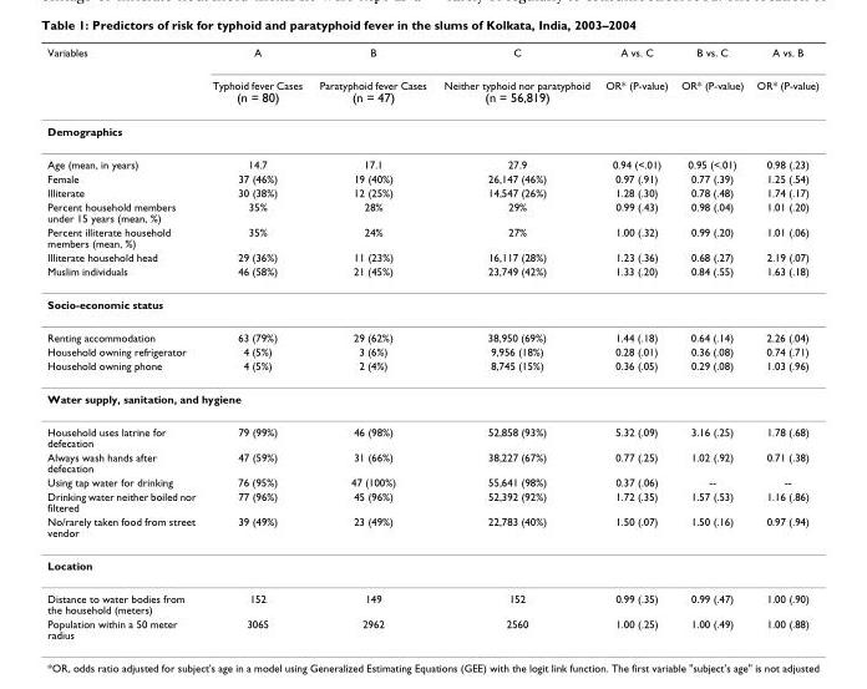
<table><thead><tr><td rowspan="2">Variables</td><td rowspan="2">A Typhoid fever Cases (n = 80)</td><td rowspan="2">B Paratyphoid fever Cases (n = 47)</td><td rowspan="2">C Neither typhoid nor paratyphoid (n = 56,819)</td><td rowspan="2">A vs. C OR* (P-value)</td><td rowspan="2">B vs. C OR* (P-value)</td><td rowspan="2">A vs. B OR* (P-value)</td></tr><tr></tr></thead><tbody><tr><td colspan="7">Demographics</td></tr><tr><td>Age (mean, in years)</td><td>14.7</td><td>17.1</td><td>27.9</td><td>0.94 (&lt;.01)</td><td>0.95 (&lt;.01)</td><td>0.98 (.23)</td></tr><tr><td>Female</td><td>37 (46%)</td><td>19 (40%)</td><td>26,147 (46%)</td><td>0.97 (.91)</td><td>0.77 (.39)</td><td>1.25 (.54)</td></tr><tr><td>Illiterate</td><td>30 (38%)</td><td>12 (25%)</td><td>14,547 (26%)</td><td>1.28 (.30)</td><td>0.78 (.48)</td><td>1.74 (.17)</td></tr><tr><td>Percent household members under 15 years (mean, %)</td><td>35%</td><td>28%</td><td>29%</td><td>0.99 (.43)</td><td>0.98 (.04)</td><td>1.01 (.20)</td></tr><tr><td>Percent illiterate household members (mean, %)</td><td>35%</td><td>24%</td><td>27%</td><td>1.00 (.32)</td><td>0.99 (.20)</td><td>1.01 (.06)</td></tr><tr><td>Illiterate household head</td><td>29 (36%)</td><td>11 (23%)</td><td>16,117 (28%)</td><td>1.23 (.36)</td><td>0.68 (.27)</td><td>2.19 (.07)</td></tr><tr><td>Muslim individuals</td><td>46 (58%)</td><td>21 (45%)</td><td>23,749 (42%)</td><td>1.33 (.20)</td><td>0.84 (.55)</td><td>1.63 (.18)</td></tr><tr><td colspan="7">Socio-economic status</td></tr><tr><td>Renting accommodation</td><td>63 (79%)</td><td>29 (62%)</td><td>38,950 (69%)</td><td>1.44 (.18)</td><td>0.64 (.14)</td><td>2.26 (.04)</td></tr><tr><td>Household owning refrigerator</td><td>4 (5%)</td><td>3 (6%)</td><td>9,956 (18%)</td><td>0.28 (.01)</td><td>0.36 (.08)</td><td>0.74 (.71)</td></tr><tr><td>Household owning phone</td><td>4 (5%)</td><td>2 (4%)</td><td>8,745 (15%)</td><td>0.36 (.05)</td><td>0.29 (.08)</td><td>1.03 (.96)</td></tr><tr><td colspan="7">Water supply, sanitation, and hygiene</td></tr><tr><td>Household uses latrine for defecation</td><td>79 (99%)</td><td>46 (98%)</td><td>52,858 (93%)</td><td>5.32 (.09)</td><td>3.16 (.25)</td><td>1.78 (.68)</td></tr><tr><td>Always wash hands after defecation</td><td>47 (59%)</td><td>31 (66%)</td><td>38,227 (67%)</td><td>0.77 (.25)</td><td>1.02 (.92)</td><td>0.71 (.38)</td></tr><tr><td>Using tap water for drinking</td><td>76 (95%)</td><td>47 (100%)</td><td>55,641 (98%)</td><td>0.37 (.06)</td><td>--</td><td>--</td></tr><tr><td>Drinking water neither boiled nor filtered</td><td>77 (96%)</td><td>45 (96%)</td><td>52,392 (92%)</td><td>1.72 (.35)</td><td>1.57 (.53)</td><td>1.16 (.86)</td></tr><tr><td>No/rarely taken food from street vendor</td><td>39 (49%)</td><td>23 (49%)</td><td>22,783 (40%)</td><td>1.50 (.07)</td><td>1.50 (.16)</td><td>0.97 (.94)</td></tr><tr><td colspan="7">Location</td></tr><tr><td>Distance to water bodies from the household (meters)</td><td>152</td><td>149</td><td>152</td><td>0.99 (.35)</td><td>0.99 (.47)</td><td>1.00 (.90)</td></tr><tr><td>Population within a 50 meter radius</td><td>3065</td><td>2962</td><td>2560</td><td>1.00 (.25)</td><td>1.00 (.49)</td><td>1.00 (.88)</td></tr></tbody></table>